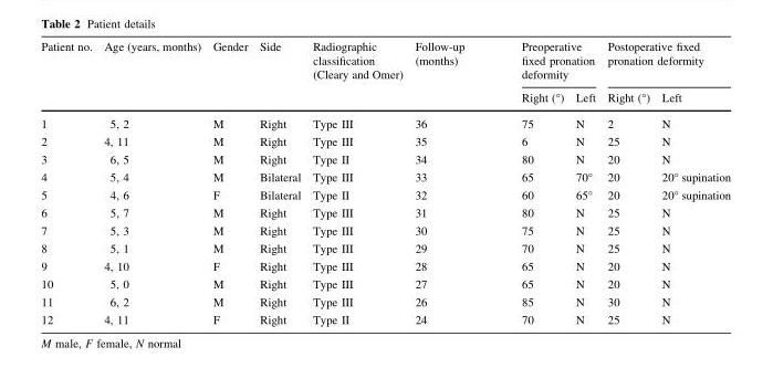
<table><thead><tr><td rowspan="2">Patient no.</td><td rowspan="2">Age (years, months)</td><td rowspan="2">Gender</td><td rowspan="2">Side</td><td rowspan="2">Radiographic classification (Cleary and Omer)</td><td rowspan="2">Follow-up (months)</td><td colspan="2">Preoperative fixed pronation deformity</td><td colspan="2">Postoperative fixed pronation deformity</td></tr><tr><td>Right (°)</td><td>Left</td><td>Right (°)</td><td>Left</td></tr></thead><tbody><tr><td>1</td><td>5, 2</td><td>M</td><td>Right</td><td>Type III</td><td>36</td><td>75</td><td>N</td><td>2</td><td>N</td></tr><tr><td>2</td><td>4, 11</td><td>M</td><td>Right</td><td>Type III</td><td>35</td><td>6</td><td>N</td><td>25</td><td>N</td></tr><tr><td>3</td><td>6, 5</td><td>M</td><td>Right</td><td>Type II</td><td>34</td><td>80</td><td>N</td><td>20</td><td>N</td></tr><tr><td>4</td><td>5, 4</td><td>M</td><td>Bilateral</td><td>Type III</td><td>33</td><td>65</td><td>70°</td><td>20</td><td>20° supination</td></tr><tr><td>5</td><td>4, 6</td><td>F</td><td>Bilateral</td><td>Type II</td><td>32</td><td>60</td><td>65°</td><td>20</td><td>20° supination</td></tr><tr><td>6</td><td>5, 7</td><td>M</td><td>Right</td><td>Type III</td><td>31</td><td>80</td><td>N</td><td>25</td><td>N</td></tr><tr><td>7</td><td>5, 3</td><td>M</td><td>Right</td><td>Type III</td><td>30</td><td>75</td><td>N</td><td>25</td><td>N</td></tr><tr><td>8</td><td>5, 1</td><td>M</td><td>Right</td><td>Type III</td><td>29</td><td>70</td><td>N</td><td>25</td><td>N</td></tr><tr><td>9</td><td>4, 10</td><td>F</td><td>Right</td><td>Type III</td><td>28</td><td>65</td><td>N</td><td>20</td><td>N</td></tr><tr><td>10</td><td>5, 0</td><td>M</td><td>Right</td><td>Type III</td><td>27</td><td>65</td><td>N</td><td>20</td><td>N</td></tr><tr><td>11</td><td>6, 2</td><td>M</td><td>Right</td><td>Type III</td><td>26</td><td>85</td><td>N</td><td>30</td><td>N</td></tr><tr><td>12</td><td>4, 11</td><td>F</td><td>Right</td><td>Type II</td><td>24</td><td>70</td><td>N</td><td>25</td><td>N</td></tr></tbody></table>